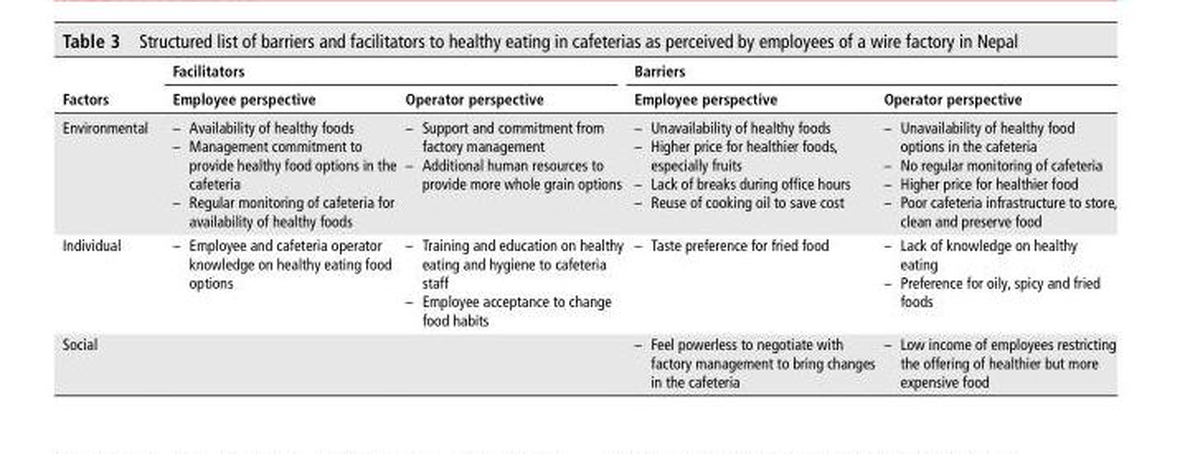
<table><thead><tr><td rowspan="2">Factors</td><td colspan="2">Facilitators</td><td colspan="2">barriers</td></tr><tr><td>employee perspective</td><td>Operator perspective</td><td>employee perspective</td><td>Operator perspective</td></tr></thead><tbody><tr><td>Environmental</td><td>– Availability of healthy foods – Management commitment to provide healthy food options in the cafeteria – Regular monitoring of cafeteria for availability of healthy foods</td><td>– Support and commitment from factory management – Additional human resources to provide more whole grain options</td><td>– Unavailability of healthy foods – Higher price for healthier foods, especially fruits – Lack of breaks during office hours – Reuse of cooking oil to save cost</td><td>– Unavailability of healthy food options in the cafeteria – No regular monitoring of cafeteria – Higher price for healthier food – Poor cafeteria infrastructure to store, clean and preserve food</td></tr><tr><td>Individual</td><td>– Employee and cafeteria operator knowledge on healthy eating food options</td><td>– Training and education on healthy eating and hygiene to cafeteria staff – Employee acceptance to change food habits</td><td>– Taste preference for fried food</td><td>– Lack of knowledge on healthy eating – Preference for oily, spicy and fried foods</td></tr><tr><td>Social</td><td></td><td></td><td>– Feel powerless to negotiate with factory management to bring changes in the cafeteria</td><td>– Low income of employees restricting the offering of healthier but more expensive food</td></tr></tbody></table>